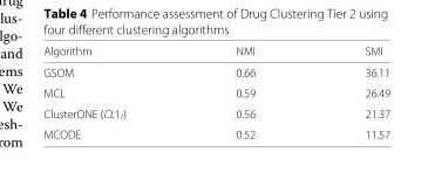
<table><thead><tr><td>Algorithm</td><td>NMI</td><td>SMI</td></tr></thead><tbody><tr><td>GSOM</td><td>0.66</td><td>36.11</td></tr><tr><td>MCL</td><td>0.59</td><td>26.49</td></tr><tr><td>ClusterONE (CL1<sub>I</sub>)</td><td>0.56</td><td>21.37</td></tr><tr><td>MCODE</td><td>0.52</td><td>11.57</td></tr></tbody></table>